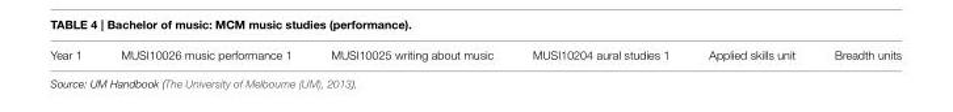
<table><tbody><tr><td>Year 1</td><td>MUSI10026 music performance 1</td><td>MUSI10025 writing about music</td><td>MUSI10204 aural studies 1</td><td>Applied skills unit</td><td>Breadth units</td></tr></tbody></table>